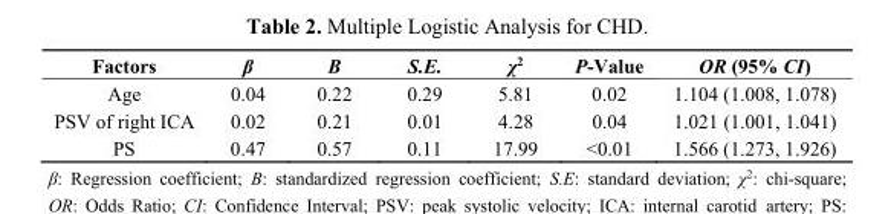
<table><thead><tr><td>Factors</td><td>β</td><td>B</td><td>S.E.</td><td>χ<sup>2</sup></td><td>P-Value</td><td>OR (95% CI)</td></tr></thead><tbody><tr><td>Age</td><td>0.04</td><td>0.22</td><td>0.29</td><td>5.81</td><td>0.02</td><td>1.104 (1.008, 1.078)</td></tr><tr><td>PSV of right ICA</td><td>0.02</td><td>0.21</td><td>0.01</td><td>4.28</td><td>0.04</td><td>1.021 (1.001, 1.041)</td></tr><tr><td>PS</td><td>0.47</td><td>0.57</td><td>0.11</td><td>17.99</td><td>&lt;0.01</td><td>1.566 (1.273, 1.926)</td></tr></tbody></table>